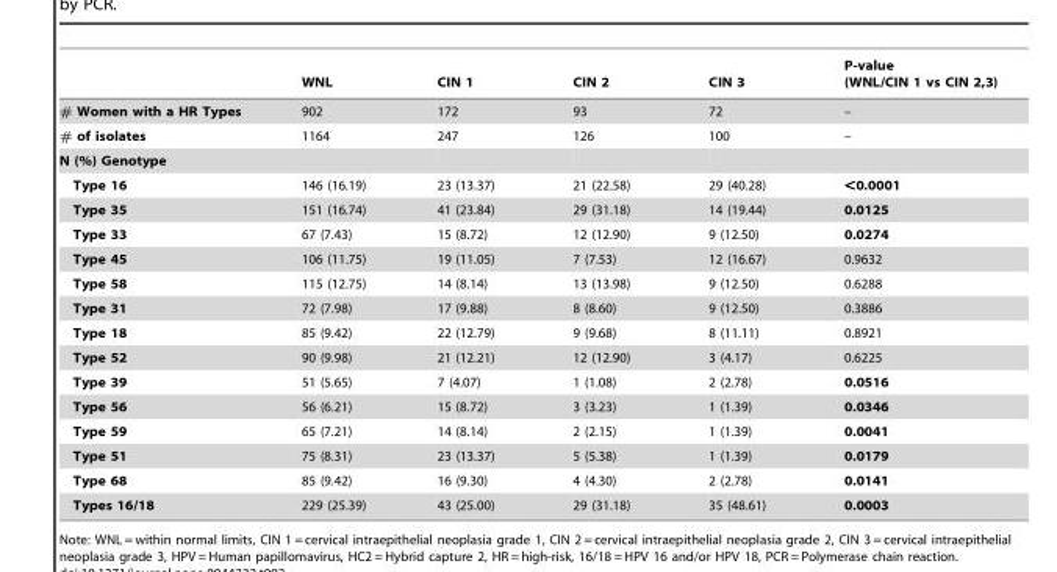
<table><thead><tr><td></td><td>WNL</td><td>CIN 1</td><td>CIN 2</td><td>CIN 3</td><td>P-value (WNL/CIN 1 vs CIN 2,3)</td></tr></thead><tbody><tr><td># Women with a HR Types</td><td>902</td><td>172</td><td>93</td><td>72</td><td>–</td></tr><tr><td># of isolates</td><td>1164</td><td>247</td><td>126</td><td>100</td><td>–</td></tr><tr><td colspan="6">N (%) Genotype</td></tr><tr><td>Type 16</td><td>146 (16.19)</td><td>23 (13.37)</td><td>21 (22.58)</td><td>29 (40.28)</td><td>&lt;0.0001</td></tr><tr><td>Type 35</td><td>151 (16.74)</td><td>41 (23.84)</td><td>29 (31.18)</td><td>14 (19.44)</td><td>0.0125</td></tr><tr><td>Type 33</td><td>67 (7.43)</td><td>15 (8.72)</td><td>12 (12.90)</td><td>9 (12.50)</td><td>0.0274</td></tr><tr><td>Type 45</td><td>106 (11.75)</td><td>19 (11.05)</td><td>7 (7.53)</td><td>12 (16.67)</td><td>0.9632</td></tr><tr><td>Type 58</td><td>115 (12.75)</td><td>14 (8.14)</td><td>13 (13.98)</td><td>9 (12.50)</td><td>0.6288</td></tr><tr><td>Type 31</td><td>72 (7.98)</td><td>17 (9.88)</td><td>8 (8.60)</td><td>9 (12.50)</td><td>0.3886</td></tr><tr><td>Type 18</td><td>85 (9.42)</td><td>22 (12.79)</td><td>9 (9.68)</td><td>8 (11.11)</td><td>0.8921</td></tr><tr><td>Type 52</td><td>90 (9.98)</td><td>21 (12.21)</td><td>12 (12.90)</td><td>3 (4.17)</td><td>0.6225</td></tr><tr><td>Type 39</td><td>51 (5.65)</td><td>7 (4.07)</td><td>1 (1.08)</td><td>2 (2.78)</td><td>0.0516</td></tr><tr><td>Type 56</td><td>56 (6.21)</td><td>15 (8.72)</td><td>3 (3.23)</td><td>1 (1.39)</td><td>0.0346</td></tr><tr><td>Type 59</td><td>65 (7.21)</td><td>14 (8.14)</td><td>2 (2.15)</td><td>1 (1.39)</td><td>0.0041</td></tr><tr><td>Type 51</td><td>75 (8.31)</td><td>23 (13.37)</td><td>5 (5.38)</td><td>1 (1.39)</td><td>0.0179</td></tr><tr><td>Type 68</td><td>85 (9.42)</td><td>16 (9.30)</td><td>4 (4.30)</td><td>2 (2.78)</td><td>0.0141</td></tr><tr><td>Types 16/18</td><td>229 (25.39)</td><td>43 (25.00)</td><td>29 (31.18)</td><td>35 (48.61)</td><td>0.0003</td></tr></tbody></table>